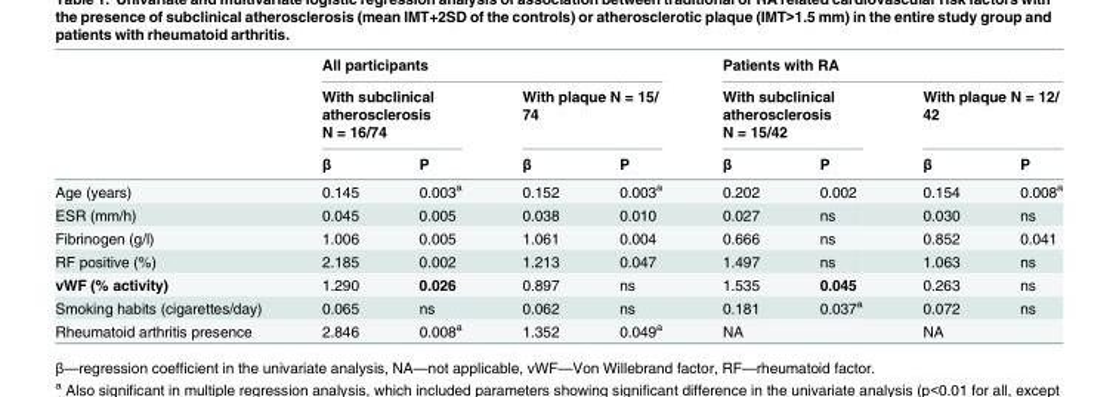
<table><thead><tr><td rowspan="3"></td><td colspan="4">All participants</td><td colspan="4">Patients with RA</td></tr><tr><td colspan="2">With subclinical atherosclerosis N = 16/74</td><td colspan="2">With plaque N = 15/ 74</td><td colspan="2">With subclinical atherosclerosis N = 15/42</td><td colspan="2">With plaque N = 12/ 42</td></tr><tr><td>β</td><td>P</td><td>β</td><td>P</td><td>β</td><td>P</td><td>β</td><td>P</td></tr></thead><tbody><tr><td>Age (years)</td><td>0.145</td><td>0.003<sup>a</sup></td><td>0.152</td><td>0.003<sup>a</sup></td><td>0.202</td><td>0.002</td><td>0.154</td><td>0.008<sup>a</sup></td></tr><tr><td>ESR (mm/h)</td><td>0.045</td><td>0.005</td><td>0.038</td><td>0.010</td><td>0.027</td><td>ns</td><td>0.030</td><td>ns</td></tr><tr><td>Fibrinogen (g/l)</td><td>1.006</td><td>0.005</td><td>1.061</td><td>0.004</td><td>0.666</td><td>ns</td><td>0.852</td><td>0.041</td></tr><tr><td>RF positive (%)</td><td>2.185</td><td>0.002</td><td>1.213</td><td>0.047</td><td>1.497</td><td>ns</td><td>1.063</td><td>ns</td></tr><tr><td>vWF (% activity)</td><td>1.290</td><td>0.026</td><td>0.897</td><td>ns</td><td>1.535</td><td>0.045</td><td>0.263</td><td>ns</td></tr><tr><td>Smoking habits (cigarettes/day)</td><td>0.065</td><td>ns</td><td>0.062</td><td>ns</td><td>0.181</td><td>0.037<sup>a</sup></td><td>0.072</td><td>ns</td></tr><tr><td>Rheumatoid arthritis presence</td><td>2.846</td><td>0.008<sup>a</sup></td><td>1.352</td><td>0.049<sup>a</sup></td><td>NA</td><td></td><td>NA</td><td></td></tr></tbody></table>